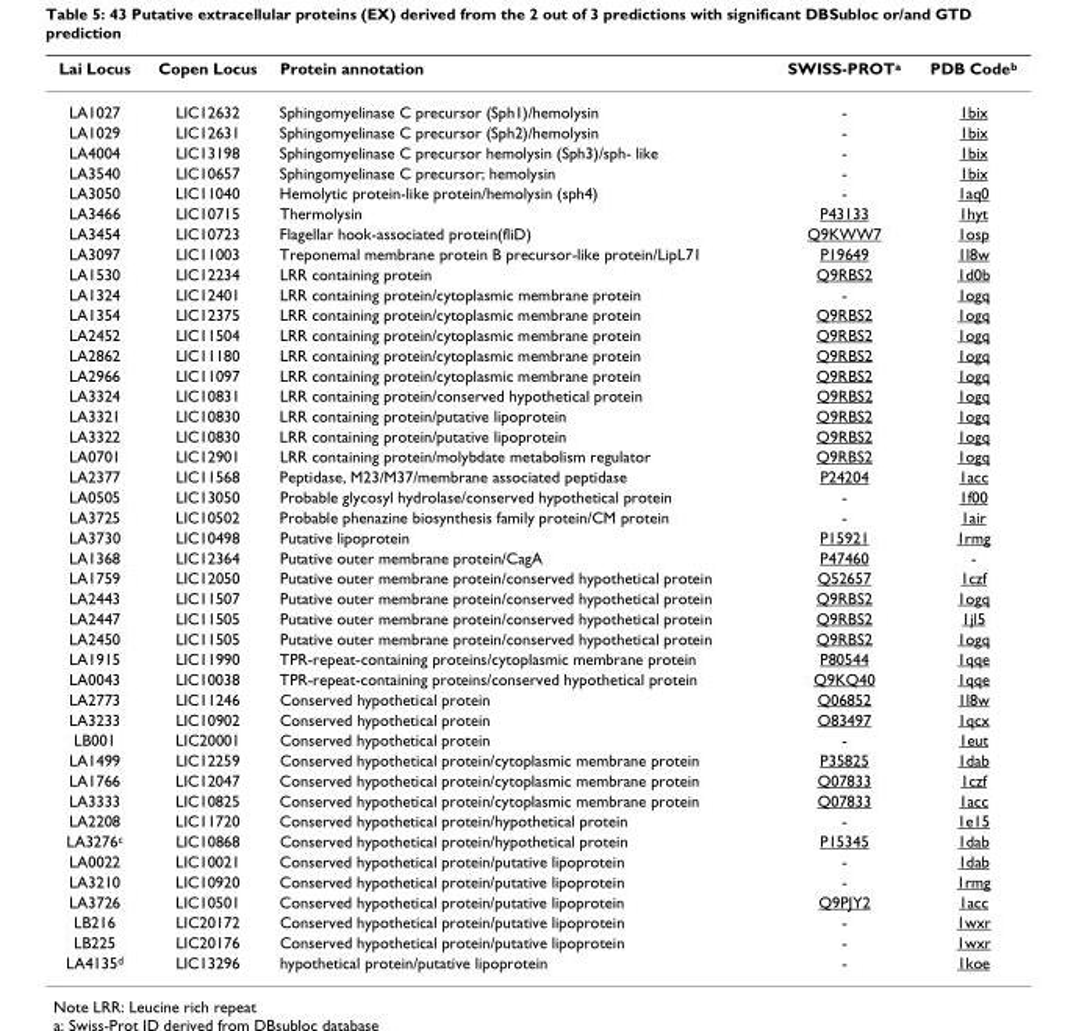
<table><thead><tr><td>Lai Locus</td><td>Copen Locus</td><td>Protein annotation</td><td>SWISS-PROT<sup>a</sup></td><td>PDB Code<sup>b</sup></td></tr></thead><tbody><tr><td>LA1027</td><td>LIC12632</td><td>Sphingomyelinase C precursor (Sph1)/hemolysin</td><td>-</td><td>1bix</td></tr><tr><td>LA1029</td><td>LIC12631</td><td>Sphingomyelinase C precursor (Sph2)/hemolysin</td><td>-</td><td>1bix</td></tr><tr><td>LA4004</td><td>LIC13198</td><td>Sphingomyelinase C precursor hemolysin (Sph3)/sph- like</td><td>-</td><td>1bix</td></tr><tr><td>LA3540</td><td>LIC10657</td><td>Sphingomyelinase C precursor; hemolysin</td><td>-</td><td>1bix</td></tr><tr><td>LA3050</td><td>LIC11040</td><td>Hemolytic protein-like protein/hemolysin (sph4)</td><td>-</td><td>1aq0</td></tr><tr><td>LA3466</td><td>LIC10715</td><td>Thermolysin</td><td>P43133</td><td>1hyt</td></tr><tr><td>LA3454</td><td>LIC10723</td><td>Flagellar hook-associated protein(fliD)</td><td>Q9KWW7</td><td>1osp</td></tr><tr><td>LA3097</td><td>LIC11003</td><td>Treponemal membrane protein B precursor-like protein/LipL71</td><td>P19649</td><td>1l8w</td></tr><tr><td>LA1530</td><td>LIC12234</td><td>LRR containing protein</td><td>Q9RBS2</td><td>1d0b</td></tr><tr><td>LA1324</td><td>LIC12401</td><td>LRR containing protein/cytoplasmic membrane protein</td><td>-</td><td>1ogq</td></tr><tr><td>LA1354</td><td>LIC12375</td><td>LRR containing protein/cytoplasmic membrane protein</td><td>Q9RBS2</td><td>1ogq</td></tr><tr><td>LA2452</td><td>LIC11504</td><td>LRR containing protein/cytoplasmic membrane protein</td><td>Q9RBS2</td><td>1ogq</td></tr><tr><td>LA2862</td><td>LIC11180</td><td>LRR containing protein/cytoplasmic membrane protein</td><td>Q9RBS2</td><td>1ogq</td></tr><tr><td>LA2966</td><td>LIC11097</td><td>LRR containing protein/cytoplasmic membrane protein</td><td>Q9RBS2</td><td>1ogq</td></tr><tr><td>LA3324</td><td>LIC10831</td><td>LRR containing protein/conserved hypothetical protein</td><td>Q9RBS2</td><td>1ogq</td></tr><tr><td>LA3321</td><td>LIC10830</td><td>LRR containing protein/putative lipoprotein</td><td>Q9RBS2</td><td>1ogq</td></tr><tr><td>LA3322</td><td>LIC10830</td><td>LRR containing protein/putative lipoprotein</td><td>Q9RBS2</td><td>1ogq</td></tr><tr><td>LA0701</td><td>LIC12901</td><td>LRR containing protein/molybdate metabolism regulator</td><td>Q9RBS2</td><td>1ogq</td></tr><tr><td>LA2377</td><td>LIC11568</td><td>Peptidase, M23/M37/membrane associated peptidase</td><td>P24204</td><td>1acc</td></tr><tr><td>LA0505</td><td>LIC13050</td><td>Probable glycosyl hydrolase/conserved hypothetical protein</td><td>-</td><td>1f00</td></tr><tr><td>LA3725</td><td>LIC10502</td><td>Probable phenazine biosynthesis family protein/CM protein</td><td>-</td><td>1air</td></tr><tr><td>LA3730</td><td>LIC10498</td><td>Putative lipoprotein</td><td>P15921</td><td>1rmg</td></tr><tr><td>LA1368</td><td>LIC12364</td><td>Putative outer membrane protein/CagA</td><td>P47460</td><td>-</td></tr><tr><td>LA1759</td><td>LIC12050</td><td>Putative outer membrane protein/conserved hypothetical protein</td><td>Q52657</td><td>1czf</td></tr><tr><td>LA2443</td><td>LIC11507</td><td>Putative outer membrane protein/conserved hypothetical protein</td><td>Q9RBS2</td><td>1ogq</td></tr><tr><td>LA2447</td><td>LIC11505</td><td>Putative outer membrane protein/conserved hypothetical protein</td><td>Q9RBS2</td><td>1jl5</td></tr><tr><td>LA2450</td><td>LIC11505</td><td>Putative outer membrane protein/conserved hypothetical protein</td><td>Q9RBS2</td><td>1ogq</td></tr><tr><td>LA1915</td><td>LIC11990</td><td>TPR-repeat-containing proteins/cytoplasmic membrane protein</td><td>P80544</td><td>1qqe</td></tr><tr><td>LA0043</td><td>LIC10038</td><td>TPR-repeat-containing proteins/conserved hypothetical protein</td><td>Q9KQ40</td><td>1qqe</td></tr><tr><td>LA2773</td><td>LIC11246</td><td>Conserved hypothetical protein</td><td>Q06852</td><td>1l8w</td></tr><tr><td>LA3233</td><td>LIC10902</td><td>Conserved hypothetical protein</td><td>O83497</td><td>1qcx</td></tr><tr><td>LB001</td><td>LIC20001</td><td>Conserved hypothetical protein</td><td>-</td><td>1eut</td></tr><tr><td>LA1499</td><td>LIC12259</td><td>Conserved hypothetical protein/cytoplasmic membrane protein</td><td>P35825</td><td>1dab</td></tr><tr><td>LA1766</td><td>LIC12047</td><td>Conserved hypothetical protein/cytoplasmic membrane protein</td><td>Q07833</td><td>1czf</td></tr><tr><td>LA3333</td><td>LIC10825</td><td>Conserved hypothetical protein/cytoplasmic membrane protein</td><td>Q07833</td><td>1acc</td></tr><tr><td>LA2208</td><td>LIC11720</td><td>Conserved hypothetical protein/hypothetical protein</td><td>-</td><td>1e15</td></tr><tr><td>LA3276<sup>c</sup></td><td>LIC10868</td><td>Conserved hypothetical protein/hypothetical protein</td><td>P15345</td><td>1dab</td></tr><tr><td>LA0022</td><td>LIC10021</td><td>Conserved hypothetical protein/putative lipoprotein</td><td>-</td><td>1dab</td></tr><tr><td>LA3210</td><td>LIC10920</td><td>Conserved hypothetical protein/putative lipoprotein</td><td>-</td><td>1rmg</td></tr><tr><td>LA3726</td><td>LIC10501</td><td>Conserved hypothetical protein/putative lipoprotein</td><td>Q9PJY2</td><td>1acc</td></tr><tr><td>LB216</td><td>LIC20172</td><td>Conserved hypothetical protein/putative lipoprotein</td><td>-</td><td>1wxr</td></tr><tr><td>LB225</td><td>LIC20176</td><td>Conserved hypothetical protein/putative lipoprotein</td><td>-</td><td>1wxr</td></tr><tr><td>LA4135<sup>d</sup></td><td>LIC13296</td><td>hypothetical protein/putative lipoprotein</td><td>-</td><td>1koe</td></tr></tbody></table>